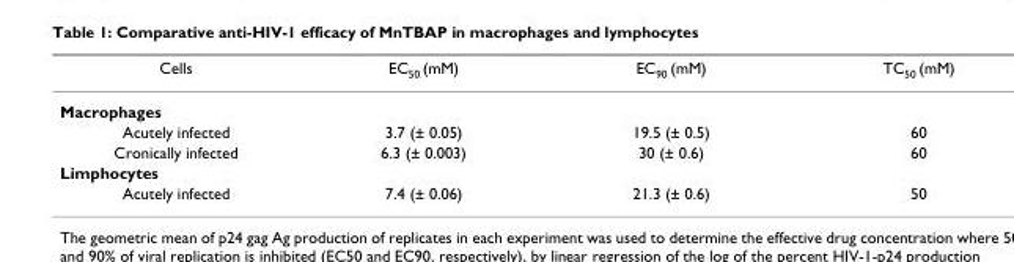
<table><thead><tr><td>Cells</td><td>EC<sub>50</sub> (mM)</td><td>EC<sub>90</sub> (mM)</td><td>TC<sub>50</sub> (mM)</td></tr></thead><tbody><tr><td colspan="4">Macrophages</td></tr><tr><td>Acutely infected</td><td>3.7 (± 0.05)</td><td>19.5 (± 0.5)</td><td>60</td></tr><tr><td>Cronically infected</td><td>6.3 (± 0.003)</td><td>30 (± 0.6)</td><td>60</td></tr><tr><td colspan="4">Limphocytes</td></tr><tr><td>Acutely infected</td><td>7.4 (± 0.06)</td><td>21.3 (± 0.6)</td><td>50</td></tr></tbody></table>